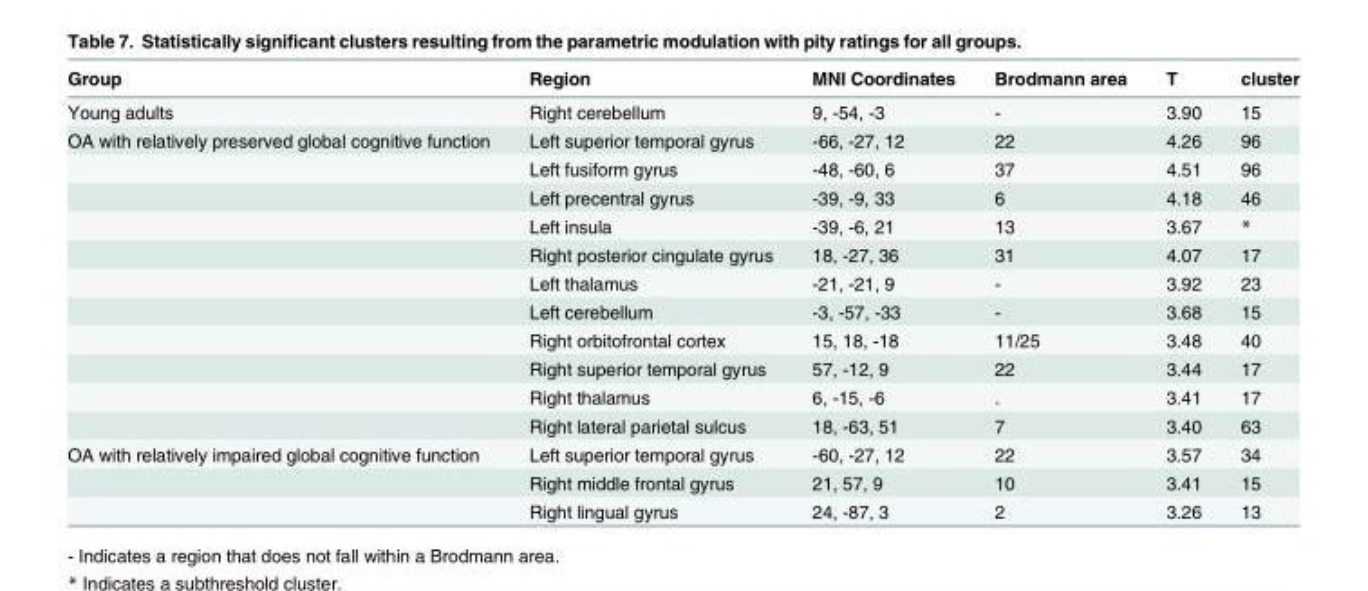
<table><thead><tr><td>Group</td><td>Region</td><td>MNI Coordinates</td><td>Brodmann area</td><td>T</td><td>cluster</td></tr></thead><tbody><tr><td>Young adults</td><td>Right cerebellum</td><td>9, -54, -3</td><td>-</td><td>3.90</td><td>15</td></tr><tr><td rowspan="11">OA with relatively preserved global cognitive function</td><td>Left superior temporal gyrus</td><td>-66, -27, 12</td><td>22</td><td>4.26</td><td>96</td></tr><tr><td>Left fusiform gyrus</td><td>-48, -60, 6</td><td>37</td><td>4.51</td><td>96</td></tr><tr><td>Left precentral gyrus</td><td>-39, -9, 33</td><td>6</td><td>4.18</td><td>46</td></tr><tr><td>Left insula</td><td>-39, -6, 21</td><td>13</td><td>3.67</td><td>*</td></tr><tr><td>Right posterior cingulate gyrus</td><td>18, -27, 36</td><td>31</td><td>4.07</td><td>17</td></tr><tr><td>Left thalamus</td><td>-21, -21, 9</td><td>-</td><td>3.92</td><td>23</td></tr><tr><td>Left cerebellum</td><td>-3, -57, -33</td><td>-</td><td>3.68</td><td>15</td></tr><tr><td>Right orbitofrontal cortex</td><td>15, 18, -18</td><td>11/25</td><td>3.48</td><td>40</td></tr><tr><td>Right superior temporal gyrus</td><td>57, -12, 9</td><td>22</td><td>3.44</td><td>17</td></tr><tr><td>Right thalamus</td><td>6, -15, -6</td><td>.</td><td>3.41</td><td>17</td></tr><tr><td>Right lateral parietal sulcus</td><td>18, -63, 51</td><td>7</td><td>3.40</td><td>63</td></tr><tr><td rowspan="3">OA with relatively impaired global cognitive function</td><td>Left superior temporal gyrus</td><td>-60, -27, 12</td><td>22</td><td>3.57</td><td>34</td></tr><tr><td>Right middle frontal gyrus</td><td>21, 57, 9</td><td>10</td><td>3.41</td><td>15</td></tr><tr><td>Right lingual gyrus</td><td>24, -87, 3</td><td>2</td><td>3.26</td><td>13</td></tr></tbody></table>